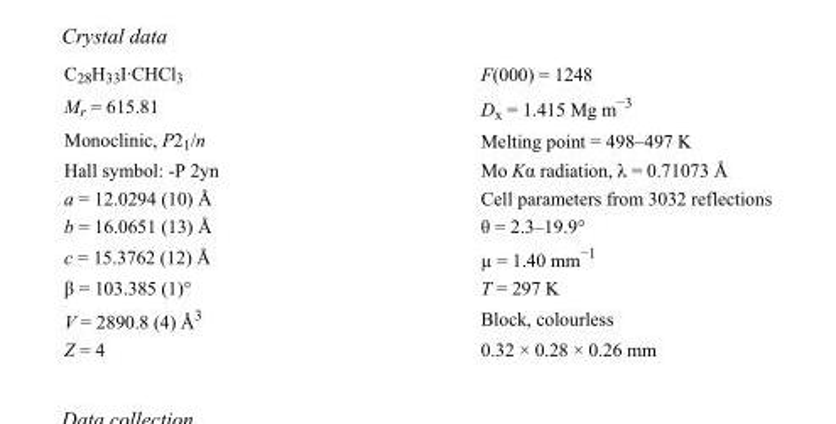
<table><tbody><tr><td>C<sub>28</sub>H<sub>33</sub>I·CHCl<sub>3</sub></td><td>F(000) = 1248</td></tr><tr><td>M<sub>r</sub> = 615.81</td><td>D<sub>x</sub> = 1.415 Mg m<sup>−3</sup></td></tr><tr><td>Monoclinic, P2<sub>1</sub>/n</td><td>Melting point = 498–497 K</td></tr><tr><td>Hall symbol: -P 2yn</td><td>Mo Kα radiation, λ = 0.71073 Å</td></tr><tr><td>a = 12.0294 (10) Å</td><td>Cell parameters from 3032 reflections</td></tr><tr><td>b = 16.0651 (13) Å</td><td>θ = 2.3–19.9°</td></tr><tr><td>c = 15.3762 (12) Å</td><td>µ = 1.40 mm<sup>−1</sup></td></tr><tr><td>β = 103.385 (1)°</td><td>T = 297 K</td></tr><tr><td>V = 2890.8 (4) Å<sup>3</sup></td><td>Block, colourless</td></tr><tr><td>Z = 4</td><td>0.32 × 0.28 × 0.26 mm</td></tr></tbody></table>